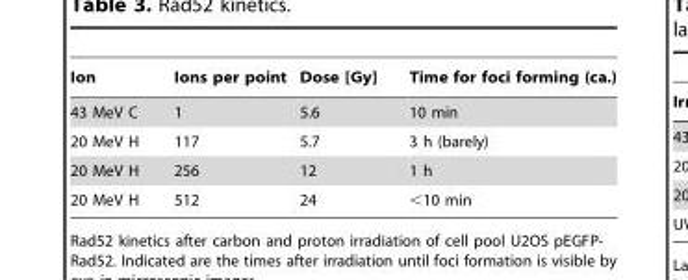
<table><thead><tr><td>Ion</td><td>Ions per point</td><td>Dose [Gy]</td><td>Time for foci forming (ca.)</td></tr></thead><tbody><tr><td>43 MeV C</td><td>1</td><td>5.6</td><td>10 min</td></tr><tr><td>20 MeV H</td><td>117</td><td>5.7</td><td>3 h (barely)</td></tr><tr><td>20 MeV H</td><td>256</td><td>12</td><td>1 h</td></tr><tr><td>20 MeV H</td><td>512</td><td>24</td><td>&lt;10 min</td></tr></tbody></table>